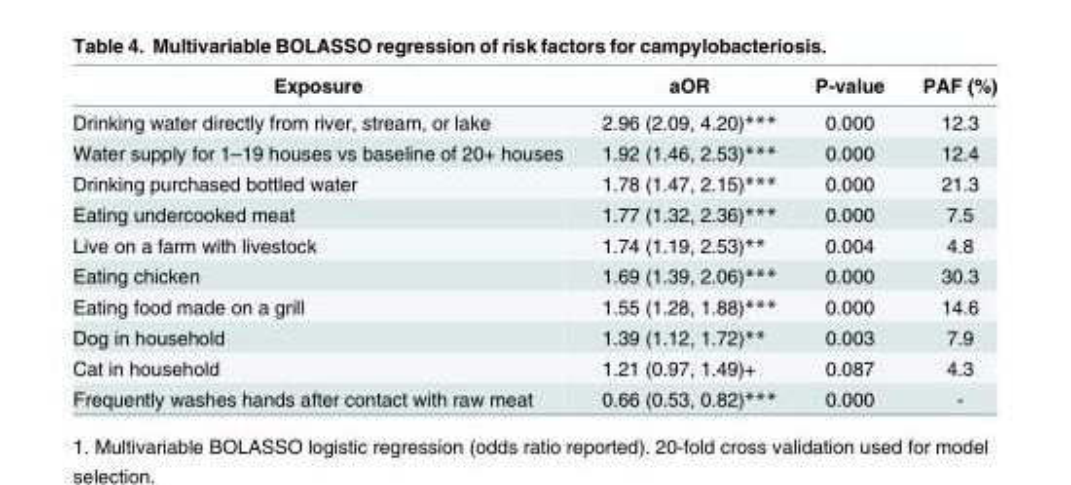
<table><thead><tr><td>Exposure</td><td>aOR</td><td>P-value</td><td>PAF (%)</td></tr></thead><tbody><tr><td>Drinking water directly from river, stream, or lake</td><td>2.96 (2.09, 4.20)***</td><td>0.000</td><td>12.3</td></tr><tr><td>Water supply for 1–19 houses vs baseline of 20+ houses</td><td>1.92 (1.46, 2.53)***</td><td>0.000</td><td>12.4</td></tr><tr><td>Drinking purchased bottled water</td><td>1.78 (1.47, 2.15)***</td><td>0.000</td><td>21.3</td></tr><tr><td>Eating undercooked meat</td><td>1.77 (1.32, 2.36)***</td><td>0.000</td><td>7.5</td></tr><tr><td>Live on a farm with livestock</td><td>1.74 (1.19, 2.53)**</td><td>0.004</td><td>4.8</td></tr><tr><td>Eating chicken</td><td>1.69 (1.39, 2.06)***</td><td>0.000</td><td>30.3</td></tr><tr><td>Eating food made on a grill</td><td>1.55 (1.28, 1.88)***</td><td>0.000</td><td>14.6</td></tr><tr><td>Dog in household</td><td>1.39 (1.12, 1.72)**</td><td>0.003</td><td>7.9</td></tr><tr><td>Cat in household</td><td>1.21 (0.97, 1.49)+</td><td>0.087</td><td>4.3</td></tr><tr><td>Frequently washes hands after contact with raw meat</td><td>0.66 (0.53, 0.82)***</td><td>0.000</td><td>-</td></tr></tbody></table>